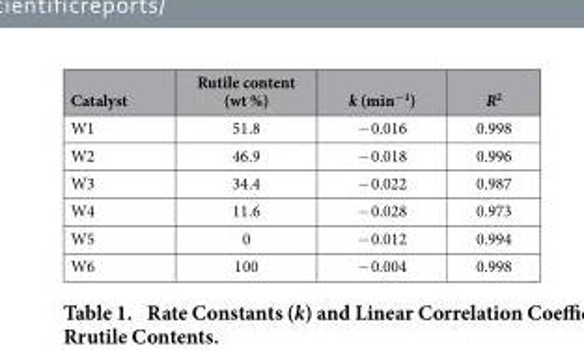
<table><thead><tr><td>Catalyst</td><td>Rutile content (wt %)</td><td>k (min<sup>−1</sup>)</td><td>R<sup>2</sup></td></tr></thead><tbody><tr><td>W1</td><td>51.8</td><td>− 0.016</td><td>0.998</td></tr><tr><td>W2</td><td>46.9</td><td>− 0.018</td><td>0.996</td></tr><tr><td>W3</td><td>34.4</td><td>− 0.022</td><td>0.987</td></tr><tr><td>W4</td><td>11.6</td><td>− 0.028</td><td>0.973</td></tr><tr><td>W5</td><td>0</td><td>− 0.012</td><td>0.994</td></tr><tr><td>W6</td><td>100</td><td>− 0.004</td><td>0.998</td></tr></tbody></table>